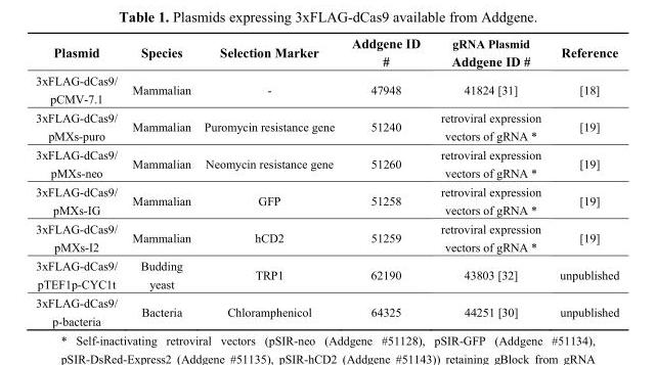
<table><thead><tr><td>Plasmid</td><td>Species</td><td>Selection Marker</td><td>Addgene ID #</td><td>gRNA Plasmid Addgene ID #</td><td>Reference</td></tr></thead><tbody><tr><td>3xFLAG-dCas9/ pCMV-7.1</td><td>Mammalian</td><td>-</td><td>47948</td><td>41824 [31]</td><td>[18]</td></tr><tr><td>3xFLAG-dCas9/ pMXs-puro</td><td>Mammalian</td><td>Puromycin resistance gene</td><td>51240</td><td>retroviral expression vectors of gRNA *</td><td>[19]</td></tr><tr><td>3xFLAG-dCas9/ pMXs-neo</td><td>Mammalian</td><td>Neomycin resistance gene</td><td>51260</td><td>retroviral expression vectors of gRNA *</td><td>[19]</td></tr><tr><td>3xFLAG-dCas9/ pMXs-IG</td><td>Mammalian</td><td>GFP</td><td>51258</td><td>retroviral expression vectors of gRNA *</td><td>[19]</td></tr><tr><td>3xFLAG-dCas9/ pMXs-I2</td><td>Mammalian</td><td>hCD2</td><td>51259</td><td>retroviral expression vectors of gRNA *</td><td>[19]</td></tr><tr><td>3xFLAG-dCas9/ pTEF1p-CYC1t</td><td>Budding yeast</td><td>TRP1</td><td>62190</td><td>43803 [32]</td><td>unpublished</td></tr><tr><td>3xFLAG-dCas9/ p-bacteria</td><td>Bacteria</td><td>Chloramphenicol</td><td>64325</td><td>44251 [30]</td><td>unpublished</td></tr></tbody></table>